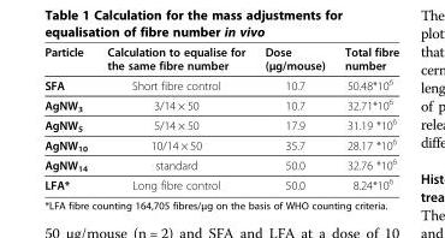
<table><thead><tr><td>Particle</td><td>Calculation to equalise for the same fibre number</td><td>Dose (μg/mouse)</td><td>Total fibre number</td></tr></thead><tbody><tr><td>SFA</td><td>Short fibre control</td><td>10.7</td><td>50.48*10<sup>6</sup></td></tr><tr><td>AgNW<sub>3</sub></td><td>3/14 × 50</td><td>10.7</td><td>32.71*10<sup>6</sup></td></tr><tr><td>AgNW<sub>5</sub></td><td>5/14 × 50</td><td>17.9</td><td>31.19 *10<sup>6</sup></td></tr><tr><td>AgNW<sub>10</sub></td><td>10/14 × 50</td><td>35.7</td><td>28.17 *10<sup>6</sup></td></tr><tr><td>AgNW<sub>14</sub></td><td>standard</td><td>50.0</td><td>32.76 *10<sup>6</sup></td></tr><tr><td>LFA*</td><td>Long fibre control</td><td>50.0</td><td>8.24*10<sup>6</sup></td></tr></tbody></table>